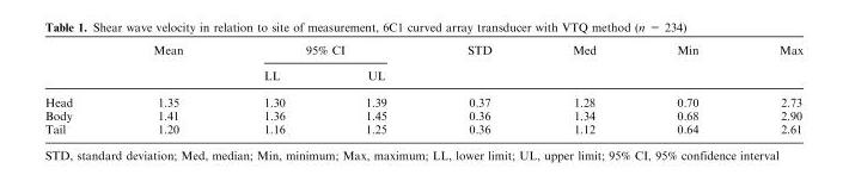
<table><thead><tr><td rowspan="2"></td><td rowspan="2">Mean</td><td colspan="2">95% CI</td><td rowspan="2">STD</td><td rowspan="2">Med</td><td rowspan="2">Min</td><td rowspan="2">Max</td></tr><tr><td>LL</td><td>UL</td></tr></thead><tbody><tr><td>Head</td><td>1.35</td><td>1.30</td><td>1.39</td><td>0.37</td><td>1.28</td><td>0.70</td><td>2.73</td></tr><tr><td>Body</td><td>1.41</td><td>1.36</td><td>1.45</td><td>0.36</td><td>1.34</td><td>0.68</td><td>2.90</td></tr><tr><td>Tail</td><td>1.20</td><td>1.16</td><td>1.25</td><td>0.36</td><td>1.12</td><td>0.64</td><td>2.61</td></tr></tbody></table>